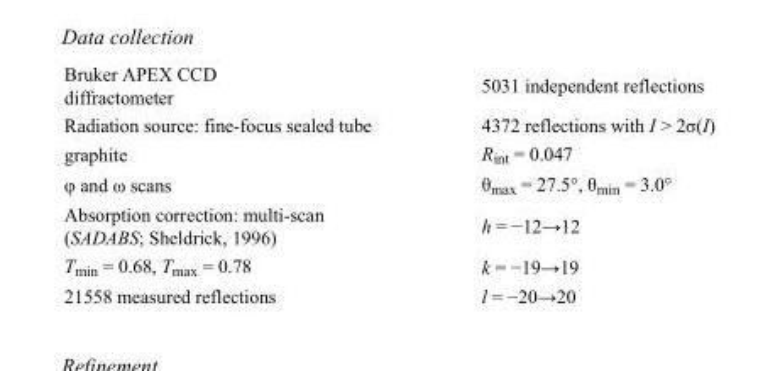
<table><tbody><tr><td>Bruker APEX CCD diffractometer</td><td>5031 independent reflections</td></tr><tr><td>Radiation source: fine-focus sealed tube</td><td>4372 reflections with I &gt; 2σ(I)</td></tr><tr><td>graphite</td><td>R<sub>int</sub> = 0.047</td></tr><tr><td>φ and ω scans</td><td>θ<sub>max</sub> = 27.5°, θ<sub>min</sub> = 3.0°</td></tr><tr><td>Absorption correction: multi-scan (SADABS; Sheldrick, 1996)</td><td>h = −12→12</td></tr><tr><td>T<sub>min</sub> = 0.68, T<sub>max</sub> = 0.78</td><td>k = −19→19</td></tr><tr><td>21558 measured reflections</td><td>l = −20→20</td></tr></tbody></table>